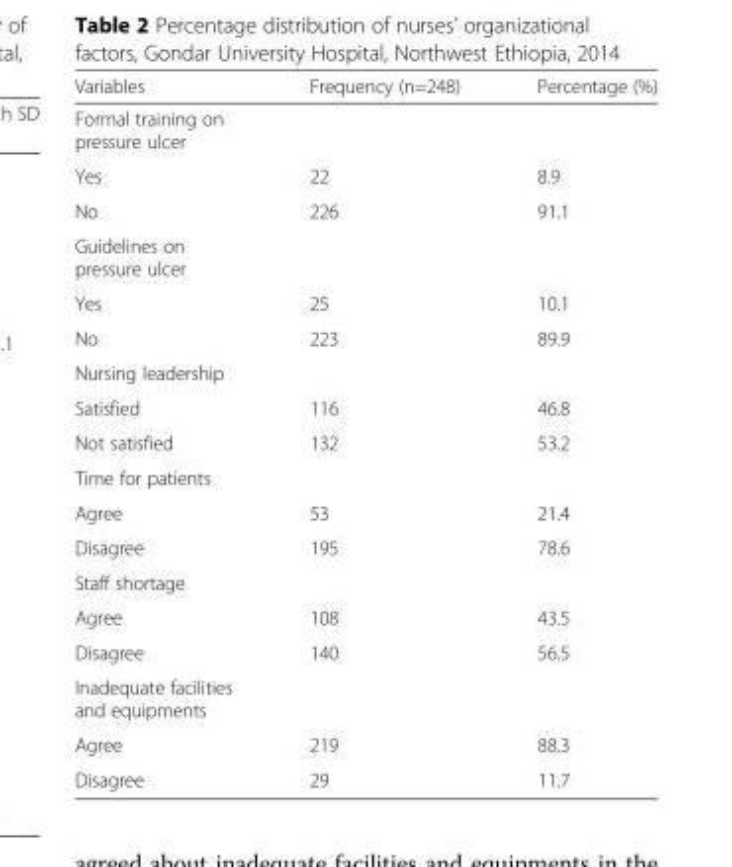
<table><thead><tr><td>Variables</td><td>Frequency (n=248)</td><td>Percentage (%)</td></tr></thead><tbody><tr><td colspan="3">Formal training on pressure ulcer</td></tr><tr><td>Yes</td><td>22</td><td>8.9</td></tr><tr><td>No</td><td>226</td><td>91.1</td></tr><tr><td colspan="3">Guidelines on pressure ulcer</td></tr><tr><td>Yes</td><td>25</td><td>10.1</td></tr><tr><td>No</td><td>223</td><td>89.9</td></tr><tr><td colspan="3">Nursing leadership</td></tr><tr><td>Satisfied</td><td>116</td><td>46.8</td></tr><tr><td>Not satisfied</td><td>132</td><td>53.2</td></tr><tr><td colspan="3">Time for patients</td></tr><tr><td>Agree</td><td>53</td><td>21.4</td></tr><tr><td>Disagree</td><td>195</td><td>78.6</td></tr><tr><td colspan="3">Staff shortage</td></tr><tr><td>Agree</td><td>108</td><td>43.5</td></tr><tr><td>Disagree</td><td>140</td><td>56.5</td></tr><tr><td colspan="3">Inadequate facilities and equipments</td></tr><tr><td>Agree</td><td>219</td><td>88.3</td></tr><tr><td>Disagree</td><td>29</td><td>11.7</td></tr></tbody></table>